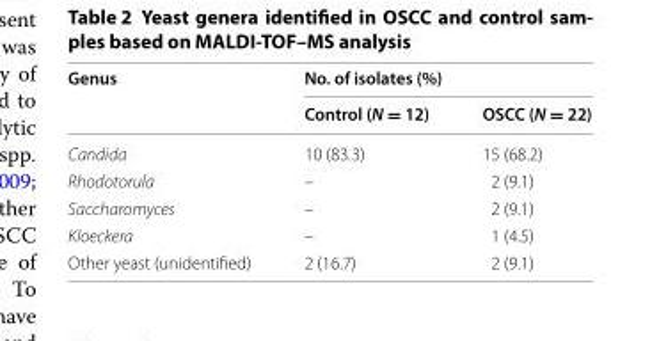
<table><thead><tr><td rowspan="2">Genus</td><td colspan="2">No. of isolates (%)</td></tr><tr><td>Control (N = 12)</td><td>OSCC (N = 22)</td></tr></thead><tbody><tr><td>Candida</td><td>10 (83.3)</td><td>15 (68.2)</td></tr><tr><td>Rhodotorula</td><td>–</td><td>2 (9.1)</td></tr><tr><td>Saccharomyces</td><td>–</td><td>2 (9.1)</td></tr><tr><td>Kloeckera</td><td>–</td><td>1 (4.5)</td></tr><tr><td>Other yeast (unidentified)</td><td>2 (16.7)</td><td>2 (9.1)</td></tr></tbody></table>